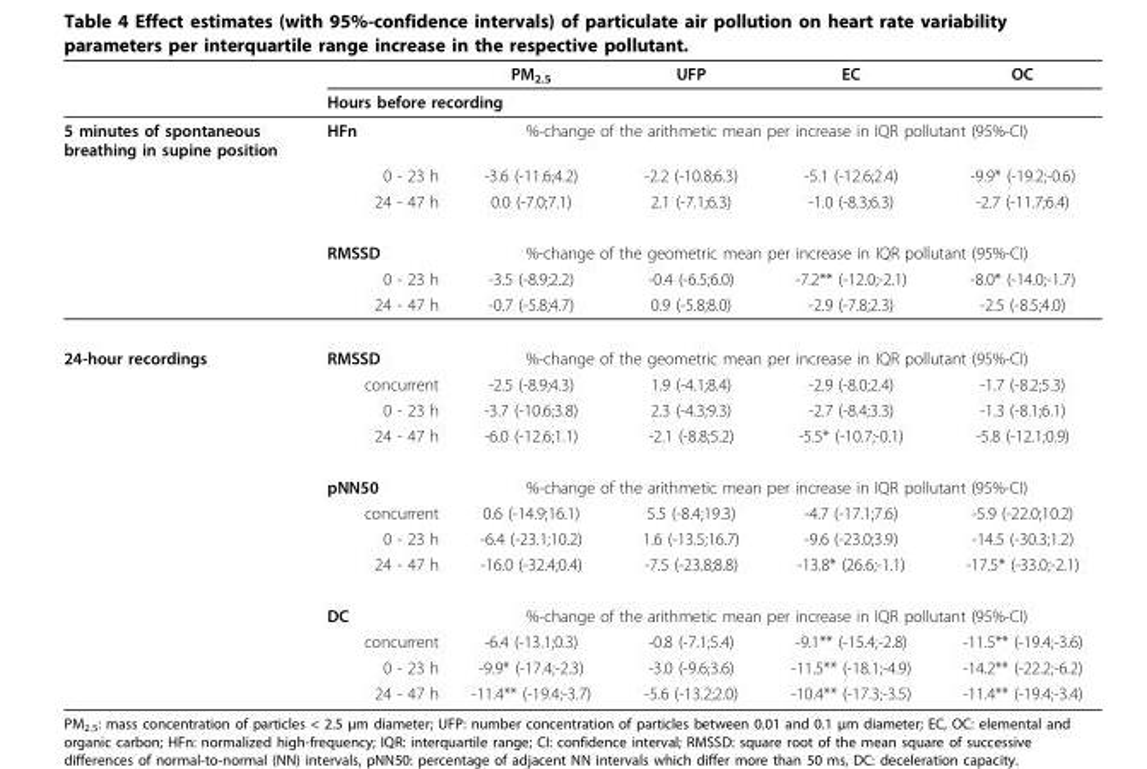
<table><thead><tr><td rowspan="2"></td><td></td><td>PM<sub>2.5</sub></td><td>UFP</td><td>EC</td><td>OC</td></tr><tr><td colspan="5">Hours before recording</td></tr></thead><tbody><tr><td rowspan="6">5 minutes of spontaneous breathing in supine position</td><td>HFn</td><td colspan="4">%-change of the arithmetic mean per increase in IQR pollutant (95%-CI)</td></tr><tr><td>0 - 23 h</td><td>-3.6 (-11.6;4.2)</td><td>-2.2 (-10.8;6.3)</td><td>-5.1 (-12.6;2.4)</td><td>-9.9* (-19.2;-0.6)</td></tr><tr><td>24 - 47 h</td><td>0.0 (-7.0;7.1)</td><td>2.1 (-7.1;6.3)</td><td>-1.0 (-8.3;6.3)</td><td>-2.7 (-11.7;6.4)</td></tr><tr><td>RMSSD</td><td colspan="4">%-change of the geometric mean per increase in IQR pollutant (95%-CI)</td></tr><tr><td>0 - 23 h</td><td>-3.5 (-8.9;2.2)</td><td>-0.4 (-6.5;6.0)</td><td>-7.2** (-12.0;-2.1)</td><td>-8.0* (-14.0;-1.7)</td></tr><tr><td>24 - 47 h</td><td>-0.7 (-5.8;4.7)</td><td>0.9 (-5.8;8.0)</td><td>-2.9 (-7.8;2.3)</td><td>-2.5 (-8.5;4.0)</td></tr><tr><td rowspan="12">24-hour recordings</td><td>RMSSD</td><td colspan="4">%-change of the geometric mean per increase in IQR pollutant (95%-CI)</td></tr><tr><td>concurrent</td><td>-2.5 (-8.9;4.3)</td><td>1.9 (-4.1;8.4)</td><td>-2.9 (-8.0;2.4)</td><td>-1.7 (-8.2;5.3)</td></tr><tr><td>0 - 23 h</td><td>-3.7 (-10.6;3.8)</td><td>2.3 (-4.3;9.3)</td><td>-2.7 (-8.4;3.3)</td><td>-1.3 (-8.1;6.1)</td></tr><tr><td>24 - 47 h</td><td>-6.0 (-12.6;1.1)</td><td>-2.1 (-8.8;5.2)</td><td>-5.5* (-10.7;-0.1)</td><td>-5.8 (-12.1;0.9)</td></tr><tr><td>pNN50</td><td colspan="4">%-change of the arithmetic mean per increase in IQR pollutant (95%-CI)</td></tr><tr><td>concurrent</td><td>0.6 (-14.9;16.1)</td><td>5.5 (-8.4;19.3)</td><td>-4.7 (-17.1;7.6)</td><td>-5.9 (-22.0;10.2)</td></tr><tr><td>0 - 23 h</td><td>-6.4 (-23.1;10.2)</td><td>1.6 (-13.5;16.7)</td><td>-9.6 (-23.0;3.9)</td><td>-14.5 (-30.3;1.2)</td></tr><tr><td>24 - 47 h</td><td>-16.0 (-32.4;0.4)</td><td>-7.5 (-23.8;8.8)</td><td>-13.8* (26.6;-1.1)</td><td>-17.5* (-33.0;-2.1)</td></tr><tr><td>DC</td><td colspan="4">%-change of the arithmetic mean per increase in IQR pollutant (95%-CI)</td></tr><tr><td>concurrent</td><td>-6.4 (-13.1;0.3)</td><td>-0.8 (-7.1;5.4)</td><td>-9.1** (-15.4;-2.8)</td><td>-11.5** (-19.4;-3.6)</td></tr><tr><td>0 - 23 h</td><td>-9.9* (-17.4;-2.3)</td><td>-3.0 (-9.6;3.6)</td><td>-11.5** (-18.1;-4.9)</td><td>-14.2** (-22.2;-6.2)</td></tr><tr><td>24 - 47 h</td><td>-11.4** (-19.4;-3.7)</td><td>-5.6 (-13.2;2.0)</td><td>-10.4** (-17.3;-3.5)</td><td>-11.4** (-19.4;-3.4)</td></tr></tbody></table>